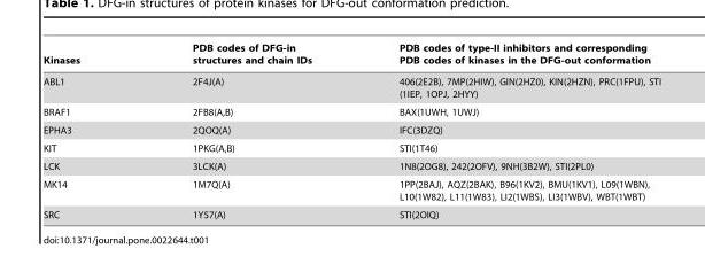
<table><thead><tr><td>Kinases</td><td>PDB codes of DFG-in structures and chain IDs</td><td>PDB codes of type-II inhibitors and corresponding PDB codes of kinases in the DFG-out conformation</td></tr></thead><tbody><tr><td>ABL1</td><td>2F4J(A)</td><td>406(2E2B), 7MP(2HIW), GIN(2HZ0), KIN(2HZN), PRC(1FPU), STI (1IEP, 1OPJ, 2HYY)</td></tr><tr><td>BRAF1</td><td>2FB8(A,B)</td><td>BAX(1UWH, 1UWJ)</td></tr><tr><td>EPHA3</td><td>2QOQ(A)</td><td>IFC(3DZQ)</td></tr><tr><td>KIT</td><td>1PKG(A,B)</td><td>STI(1T46)</td></tr><tr><td>LCK</td><td>3LCK(A)</td><td>1N8(2OG8), 242(2OFV), 9NH(3B2W), STI(2PL0)</td></tr><tr><td>MK14</td><td>1M7Q(A)</td><td>1PP(2BAJ), AQZ(2BAK), B96(1KV2), BMU(1KV1), L09(1WBN), L10(1W82), L11(1W83), LI2(1WBS), LI3(1WBV), WBT(1WBT)</td></tr><tr><td>SRC</td><td>1Y57(A)</td><td>STI(2OIQ)</td></tr></tbody></table>